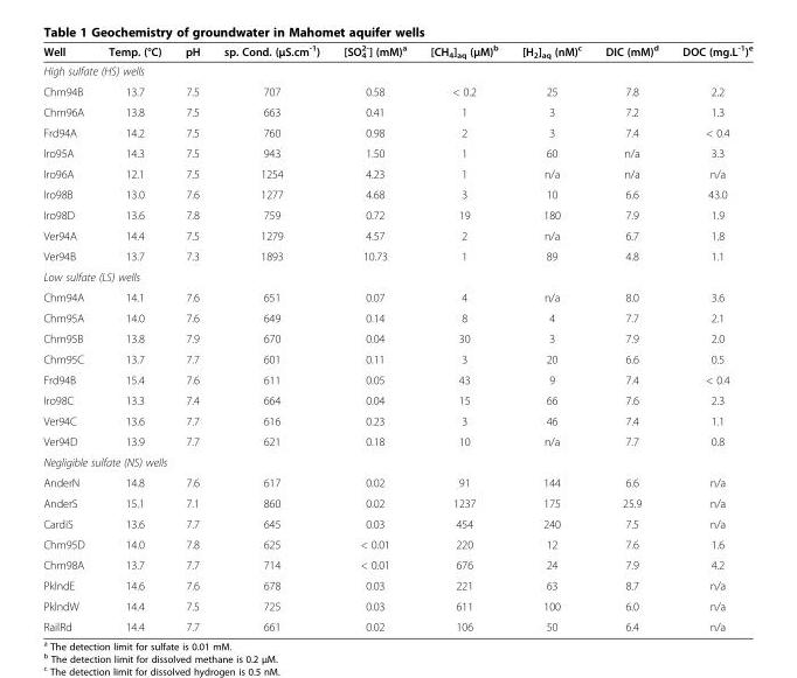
<table><thead><tr><td>Well</td><td>Temp. (°C)</td><td>pH</td><td>sp. Cond. (μS.cm<sup>-1</sup>)</td><td>[SO<sub>4</sub> <sup>2-</sup>] (mM)<sup>a</sup></td><td>[CH<sub>4</sub>]<sub>aq</sub> (μM)<sup>b</sup></td><td>[H<sub>2</sub>]<sub>aq</sub> (nM)<sup>c</sup></td><td>DIC (mM)<sup>d</sup></td><td>DOC (mg.L<sup>-1</sup>)<sup>e</sup></td></tr></thead><tbody><tr><td colspan="9">High sulfate (HS) wells</td></tr><tr><td>Chm94B</td><td>13.7</td><td>7.5</td><td>707</td><td>0.58</td><td>&lt; 0.2</td><td>25</td><td>7.8</td><td>2.2</td></tr><tr><td>Chm96A</td><td>13.8</td><td>7.5</td><td>663</td><td>0.41</td><td>1</td><td>3</td><td>7.2</td><td>1.3</td></tr><tr><td>Frd94A</td><td>14.2</td><td>7.5</td><td>760</td><td>0.98</td><td>2</td><td>3</td><td>7.4</td><td>&lt; 0.4</td></tr><tr><td>Iro95A</td><td>14.3</td><td>7.5</td><td>943</td><td>1.50</td><td>1</td><td>60</td><td>n/a</td><td>3.3</td></tr><tr><td>Iro96A</td><td>12.1</td><td>7.5</td><td>1254</td><td>4.23</td><td>1</td><td>n/a</td><td>n/a</td><td>n/a</td></tr><tr><td>Iro98B</td><td>13.0</td><td>7.6</td><td>1277</td><td>4.68</td><td>3</td><td>10</td><td>6.6</td><td>43.0</td></tr><tr><td>Iro98D</td><td>13.6</td><td>7.8</td><td>759</td><td>0.72</td><td>19</td><td>180</td><td>7.9</td><td>1.9</td></tr><tr><td>Ver94A</td><td>14.4</td><td>7.5</td><td>1279</td><td>4.57</td><td>2</td><td>n/a</td><td>6.7</td><td>1.8</td></tr><tr><td>Ver94B</td><td>13.7</td><td>7.3</td><td>1893</td><td>10.73</td><td>1</td><td>89</td><td>4.8</td><td>1.1</td></tr><tr><td colspan="9">Low sulfate (LS) wells</td></tr><tr><td>Chm94A</td><td>14.1</td><td>7.6</td><td>651</td><td>0.07</td><td>4</td><td>n/a</td><td>8.0</td><td>3.6</td></tr><tr><td>Chm95A</td><td>14.0</td><td>7.6</td><td>649</td><td>0.14</td><td>8</td><td>4</td><td>7.7</td><td>2.1</td></tr><tr><td>Chm95B</td><td>13.8</td><td>7.9</td><td>670</td><td>0.04</td><td>30</td><td>3</td><td>7.9</td><td>2.0</td></tr><tr><td>Chm95C</td><td>13.7</td><td>7.7</td><td>601</td><td>0.11</td><td>3</td><td>20</td><td>6.6</td><td>0.5</td></tr><tr><td>Frd94B</td><td>15.4</td><td>7.6</td><td>611</td><td>0.05</td><td>43</td><td>9</td><td>7.4</td><td>&lt; 0.4</td></tr><tr><td>Iro98C</td><td>13.3</td><td>7.4</td><td>664</td><td>0.04</td><td>15</td><td>66</td><td>7.6</td><td>2.3</td></tr><tr><td>Ver94C</td><td>13.6</td><td>7.7</td><td>616</td><td>0.23</td><td>3</td><td>46</td><td>7.4</td><td>1.1</td></tr><tr><td>Ver94D</td><td>13.9</td><td>7.7</td><td>621</td><td>0.18</td><td>10</td><td>n/a</td><td>7.7</td><td>0.8</td></tr><tr><td colspan="9">Negligible sulfate (NS) wells</td></tr><tr><td>AnderN</td><td>14.8</td><td>7.6</td><td>617</td><td>0.02</td><td>91</td><td>144</td><td>6.6</td><td>n/a</td></tr><tr><td>AnderS</td><td>15.1</td><td>7.1</td><td>860</td><td>0.02</td><td>1237</td><td>175</td><td>25.9</td><td>n/a</td></tr><tr><td>CardiS</td><td>13.6</td><td>7.7</td><td>645</td><td>0.03</td><td>454</td><td>240</td><td>7.5</td><td>n/a</td></tr><tr><td>Chm95D</td><td>14.0</td><td>7.8</td><td>625</td><td>&lt; 0.01</td><td>220</td><td>12</td><td>7.6</td><td>1.6</td></tr><tr><td>Chm98A</td><td>13.7</td><td>7.7</td><td>714</td><td>&lt; 0.01</td><td>676</td><td>24</td><td>7.9</td><td>4.2</td></tr><tr><td>PklndE</td><td>14.6</td><td>7.6</td><td>678</td><td>0.03</td><td>221</td><td>63</td><td>8.7</td><td>n/a</td></tr><tr><td>PklndW</td><td>14.4</td><td>7.5</td><td>725</td><td>0.03</td><td>611</td><td>100</td><td>6.0</td><td>n/a</td></tr><tr><td>RailRd</td><td>14.4</td><td>7.7</td><td>661</td><td>0.02</td><td>106</td><td>50</td><td>6.4</td><td>n/a</td></tr></tbody></table>